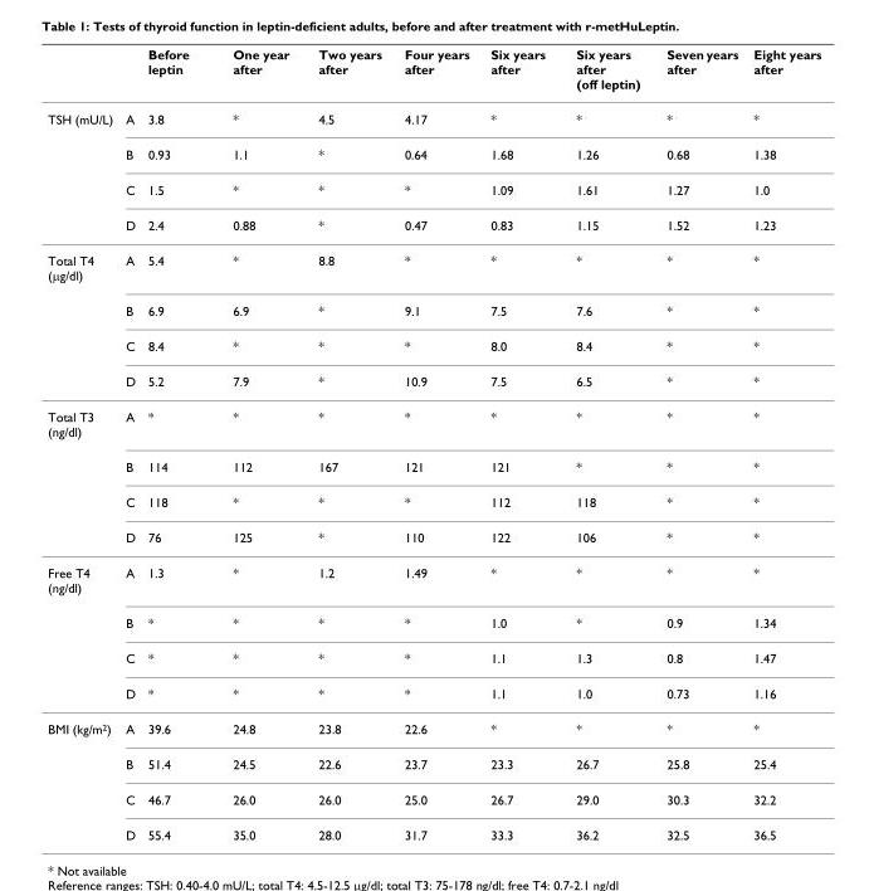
<table><thead><tr><td></td><td></td><td>Before leptin</td><td>One year after</td><td>Two years after</td><td>Four years after</td><td>Six years after</td><td>Six years after (off leptin)</td><td>Seven years after</td><td>Eight years after</td></tr></thead><tbody><tr><td rowspan="4">TSH (mU/L)</td><td>A</td><td>3.8</td><td>*</td><td>4.5</td><td>4.17</td><td>*</td><td>*</td><td>*</td><td>*</td></tr><tr><td>B</td><td>0.93</td><td>1.1</td><td>*</td><td>0.64</td><td>1.68</td><td>1.26</td><td>0.68</td><td>1.38</td></tr><tr><td>C</td><td>1.5</td><td>*</td><td>*</td><td>*</td><td>1.09</td><td>1.61</td><td>1.27</td><td>1.0</td></tr><tr><td>D</td><td>2.4</td><td>0.88</td><td>*</td><td>0.47</td><td>0.83</td><td>1.15</td><td>1.52</td><td>1.23</td></tr><tr><td rowspan="4">Total T4 (μg/dl)</td><td>A</td><td>5.4</td><td>*</td><td>8.8</td><td>*</td><td>*</td><td>*</td><td>*</td><td>*</td></tr><tr><td>B</td><td>6.9</td><td>6.9</td><td>*</td><td>9.1</td><td>7.5</td><td>7.6</td><td>*</td><td>*</td></tr><tr><td>C</td><td>8.4</td><td>*</td><td>*</td><td>*</td><td>8.0</td><td>8.4</td><td>*</td><td>*</td></tr><tr><td>D</td><td>5.2</td><td>7.9</td><td>*</td><td>10.9</td><td>7.5</td><td>6.5</td><td>*</td><td>*</td></tr><tr><td rowspan="4">Total T3 (ng/dl)</td><td>A</td><td>*</td><td>*</td><td>*</td><td>*</td><td>*</td><td>*</td><td>*</td><td>*</td></tr><tr><td>B</td><td>114</td><td>112</td><td>167</td><td>121</td><td>121</td><td>*</td><td>*</td><td>*</td></tr><tr><td>C</td><td>118</td><td>*</td><td>*</td><td>*</td><td>112</td><td>118</td><td>*</td><td>*</td></tr><tr><td>D</td><td>76</td><td>125</td><td>*</td><td>110</td><td>122</td><td>106</td><td>*</td><td>*</td></tr><tr><td rowspan="4">Free T4 (ng/dl)</td><td>A</td><td>1.3</td><td>*</td><td>1.2</td><td>1.49</td><td>*</td><td>*</td><td>*</td><td>*</td></tr><tr><td>B</td><td>*</td><td>*</td><td>*</td><td>*</td><td>1.0</td><td>*</td><td>0.9</td><td>1.34</td></tr><tr><td>C</td><td>*</td><td>*</td><td>*</td><td>*</td><td>1.1</td><td>1.3</td><td>0.8</td><td>1.47</td></tr><tr><td>D</td><td>*</td><td>*</td><td>*</td><td>*</td><td>1.1</td><td>1.0</td><td>0.73</td><td>1.16</td></tr><tr><td rowspan="4">BMI (kg/m<sup>2</sup>)</td><td>A</td><td>39.6</td><td>24.8</td><td>23.8</td><td>22.6</td><td>*</td><td>*</td><td>*</td><td>*</td></tr><tr><td>B</td><td>51.4</td><td>24.5</td><td>22.6</td><td>23.7</td><td>23.3</td><td>26.7</td><td>25.8</td><td>25.4</td></tr><tr><td>C</td><td>46.7</td><td>26.0</td><td>26.0</td><td>25.0</td><td>26.7</td><td>29.0</td><td>30.3</td><td>32.2</td></tr><tr><td>D</td><td>55.4</td><td>35.0</td><td>28.0</td><td>31.7</td><td>33.3</td><td>36.2</td><td>32.5</td><td>36.5</td></tr></tbody></table>